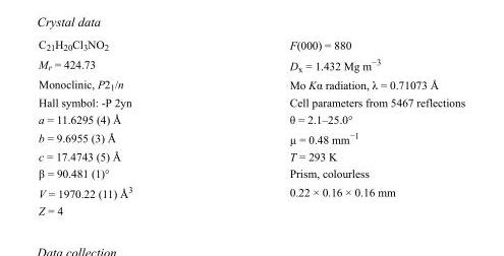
<table><tbody><tr><td>C<sub>21</sub>H<sub>20</sub>Cl<sub>3</sub>NO<sub>2</sub></td><td>F(000) = 880</td></tr><tr><td>M<sub>r</sub> = 424.73</td><td>D<sub>x</sub> = 1.432 Mg m<sup>−3</sup></td></tr><tr><td>Monoclinic, P2<sub>1</sub>/n</td><td>Mo Kα radiation, λ = 0.71073 Å</td></tr><tr><td>Hall symbol: -P 2yn</td><td>Cell parameters from 5467 reflections</td></tr><tr><td>a = 11.6295 (4) Å</td><td>θ = 2.1–25.0°</td></tr><tr><td>b = 9.6955 (3) Å</td><td>µ = 0.48 mm<sup>−1</sup></td></tr><tr><td>c = 17.4743 (5) Å</td><td>T = 293 K</td></tr><tr><td>β = 90.481 (1)°</td><td>Prism, colourless</td></tr><tr><td>V = 1970.22 (11) Å<sup>3</sup></td><td>0.22 × 0.16 × 0.16 mm</td></tr><tr><td>Z = 4</td><td></td></tr></tbody></table>